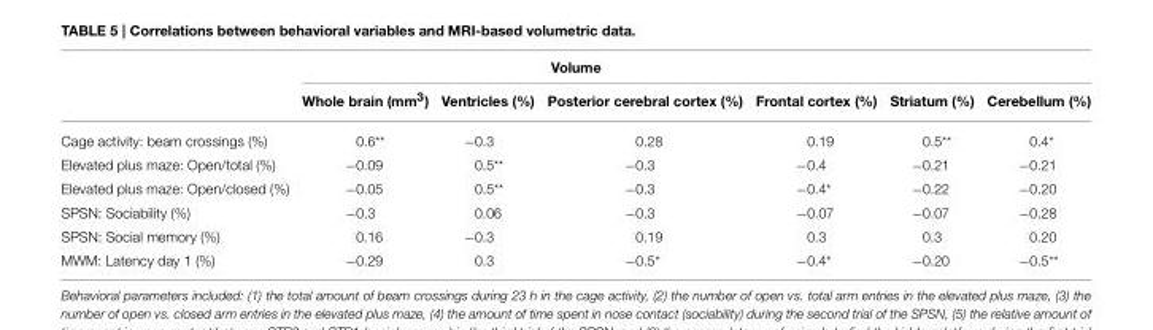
<table><thead><tr><td rowspan="2"></td><td colspan="6">Volume</td></tr><tr><td>Whole brain (mm<sup>3</sup>)</td><td>Ventricles (%)</td><td>Posterior cerebral cortex (%)</td><td>Frontal cortex (%)</td><td>Striatum (%)</td><td>Cerebellum (%)</td></tr></thead><tbody><tr><td>Cage activity: beam crossings (%)</td><td>0.6**</td><td>−0.3</td><td>0.28</td><td>0.19</td><td>0.5**</td><td>0.4*</td></tr><tr><td>Elevated plus maze: Open/total (%)</td><td>−0.09</td><td>0.5**</td><td>−0.3</td><td>−0.4</td><td>−0.21</td><td>−0.21</td></tr><tr><td>Elevated plus maze: Open/closed (%)</td><td>−0.05</td><td>0.5**</td><td>−0.3</td><td>−0.4*</td><td>−0.22</td><td>−0.20</td></tr><tr><td>SPSN: Sociability (%)</td><td>−0.3</td><td>0.06</td><td>−0.3</td><td>−0.07</td><td>−0.07</td><td>−0.28</td></tr><tr><td>SPSN: Social memory (%)</td><td>0.16</td><td>−0.3</td><td>0.19</td><td>0.3</td><td>0.3</td><td>0.20</td></tr><tr><td>MWM: Latency day 1 (%)</td><td>−0.29</td><td>0.3</td><td>−0.5*</td><td>−0.4*</td><td>−0.20</td><td>−0.5**</td></tr></tbody></table>